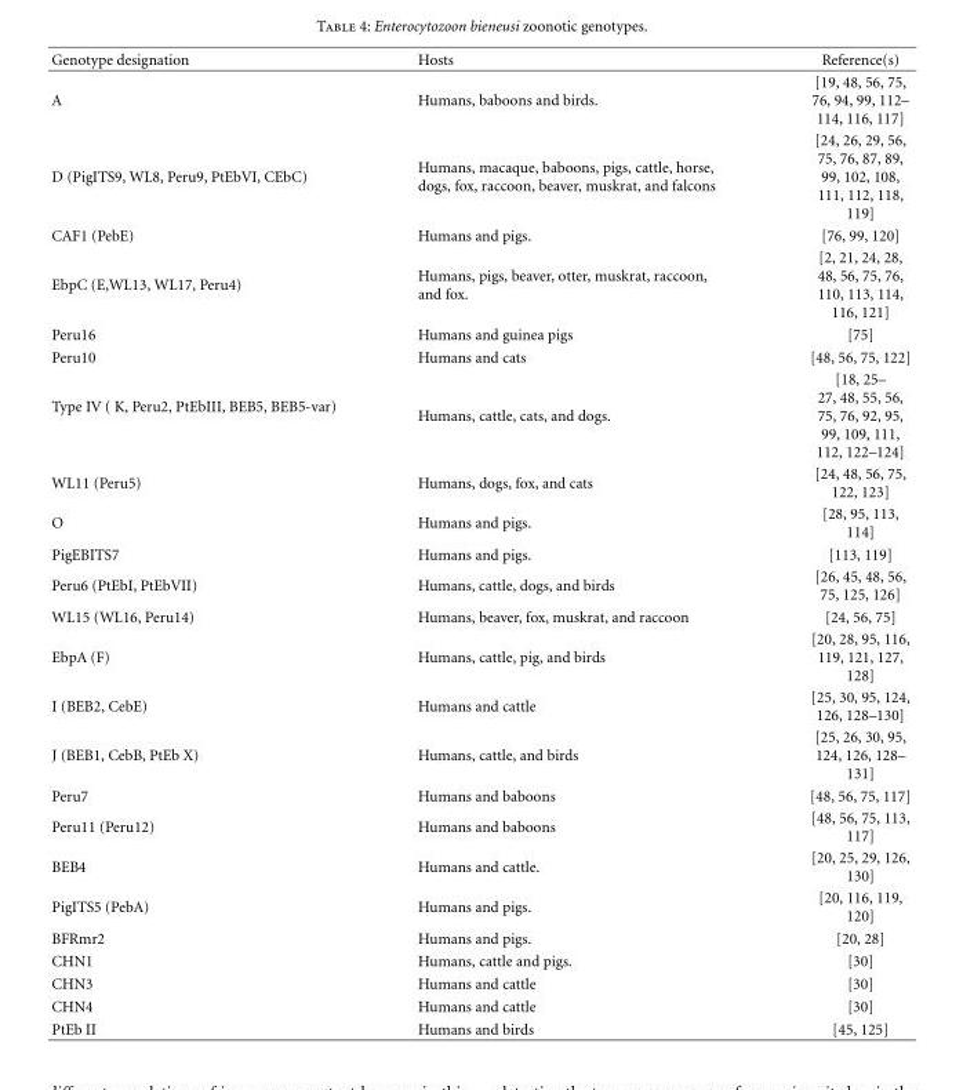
<table><thead><tr><td>Genotype designation</td><td>Hosts</td><td>Reference(s)</td></tr></thead><tbody><tr><td>A</td><td>Humans, baboons and birds.</td><td>[19, 48, 56, 75, 76, 94, 99, 112– 114, 116, 117]</td></tr><tr><td>D (PigITS9, WL8, Peru9, PtEbVI, CEbC)</td><td>Humans, macaque, baboons, pigs, cattle, horse, dogs, fox, raccoon, beaver, muskrat, and falcons</td><td>[24, 26, 29, 56, 75, 76, 87, 89, 99, 102, 108, 111, 112, 118, 119]</td></tr><tr><td>CAF1 (PebE)</td><td>Humans and pigs.</td><td>[76, 99, 120]</td></tr><tr><td>EbpC (E,WL13, WL17, Peru4)</td><td>Humans, pigs, beaver, otter, muskrat, raccoon, and fox.</td><td>[2, 21, 24, 28, 48, 56, 75, 76, 110, 113, 114, 116, 121]</td></tr><tr><td>Peru16</td><td>Humans and guinea pigs</td><td>[75]</td></tr><tr><td>Peru10</td><td>Humans and cats</td><td>[48, 56, 75, 122]</td></tr><tr><td>Type IV ( K, Peru2, PtEbIII, BEB5, BEB5-var)</td><td>Humans, cattle, cats, and dogs.</td><td>[18, 25– 27, 48, 55, 56, 75, 76, 92, 95, 99, 109, 111, 112, 122–124]</td></tr><tr><td>WL11 (Peru5)</td><td>Humans, dogs, fox, and cats</td><td>[24, 48, 56, 75, 122, 123]</td></tr><tr><td>O</td><td>Humans and pigs.</td><td>[28, 95, 113, 114]</td></tr><tr><td>PigEBITS7</td><td>Humans and pigs.</td><td>[113, 119]</td></tr><tr><td>Peru6 (PtEbI, PtEbVII)</td><td>Humans, cattle, dogs, and birds</td><td>[26, 45, 48, 56, 75, 125, 126]</td></tr><tr><td>WL15 (WL16, Peru14)</td><td>Humans, beaver, fox, muskrat, and raccoon</td><td>[24, 56, 75]</td></tr><tr><td>EbpA (F)</td><td>Humans, cattle, pig, and birds</td><td>[20, 28, 95, 116, 119, 121, 127, 128]</td></tr><tr><td>I (BEB2, CebE)</td><td>Humans and cattle</td><td>[25, 30, 95, 124, 126, 128–130]</td></tr><tr><td>J (BEB1, CebB, PtEb X)</td><td>Humans, cattle, and birds</td><td>[25, 26, 30, 95, 124, 126, 128– 131]</td></tr><tr><td>Peru7</td><td>Humans and baboons</td><td>[48, 56, 75, 117]</td></tr><tr><td>Peru11 (Peru12)</td><td>Humans and baboons</td><td>[48, 56, 75, 113, 117]</td></tr><tr><td>BEB4</td><td>Humans and cattle.</td><td>[20, 25, 29, 126, 130]</td></tr><tr><td>PigITS5 (PebA)</td><td>Humans and pigs.</td><td>[20, 116, 119, 120]</td></tr><tr><td>BFRmr2</td><td>Humans and pigs.</td><td>[20, 28]</td></tr><tr><td>CHN1</td><td>Humans, cattle and pigs.</td><td>[30]</td></tr><tr><td>CHN3</td><td>Humans and cattle</td><td>[30]</td></tr><tr><td>CHN4</td><td>Humans and cattle</td><td>[30]</td></tr><tr><td>PtEb II</td><td>Humans and birds</td><td>[45, 125]</td></tr></tbody></table>